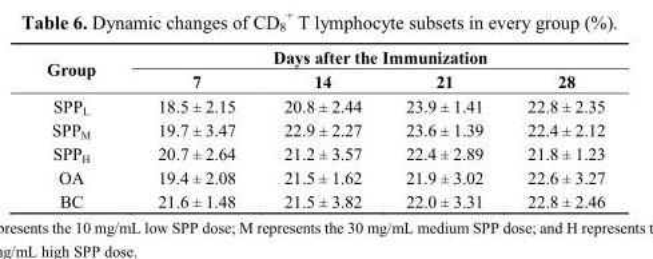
<table><thead><tr><td rowspan="2">Group</td><td colspan="4">Days after the Immunization</td></tr><tr><td>7</td><td>14</td><td>21</td><td>28</td></tr></thead><tbody><tr><td>SPP<sub>L</sub></td><td>18.5 ± 2.15</td><td>20.8 ± 2.44</td><td>23.9 ± 1.41</td><td>22.8 ± 2.35</td></tr><tr><td>SPP<sub>M</sub></td><td>19.7 ± 3.47</td><td>22.9 ± 2.27</td><td>23.6 ± 1.39</td><td>22.4 ± 2.12</td></tr><tr><td>SPP<sub>H</sub></td><td>20.7 ± 2.64</td><td>21.2 ± 3.57</td><td>22.4 ± 2.89</td><td>21.8 ± 1.23</td></tr><tr><td>OA</td><td>19.4 ± 2.08</td><td>21.5 ± 1.62</td><td>21.9 ± 3.02</td><td>22.6 ± 3.27</td></tr><tr><td>BC</td><td>21.6 ± 1.48</td><td>21.5 ± 3.82</td><td>22.0 ± 3.31</td><td>22.8 ± 2.46</td></tr></tbody></table>